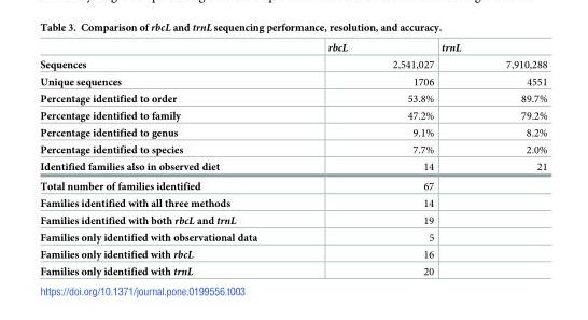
<table><thead><tr><td></td><td>rbcL</td><td>trnL</td></tr></thead><tbody><tr><td>Sequences</td><td>2,541,027</td><td>7,910,288</td></tr><tr><td>Unique sequences</td><td>1706</td><td>4551</td></tr><tr><td>Percentage identified to order</td><td>53.8%</td><td>89.7%</td></tr><tr><td>Percentage identified to family</td><td>47.2%</td><td>79.2%</td></tr><tr><td>Percentage identified to genus</td><td>9.1%</td><td>8.2%</td></tr><tr><td>Percentage identified to species</td><td>7.7%</td><td>2.0%</td></tr><tr><td>Identified families also in observed diet</td><td>14</td><td>21</td></tr><tr><td>Total number of families identified</td><td>67</td><td></td></tr><tr><td>Families identified with all three methods</td><td>14</td><td></td></tr><tr><td>Families identified with both rbcL and trnL</td><td>19</td><td></td></tr><tr><td>Families only identified with observational data</td><td>5</td><td></td></tr><tr><td>Families only identified with rbcL</td><td>16</td><td></td></tr><tr><td>Families only identified with trnL</td><td>20</td><td></td></tr></tbody></table>